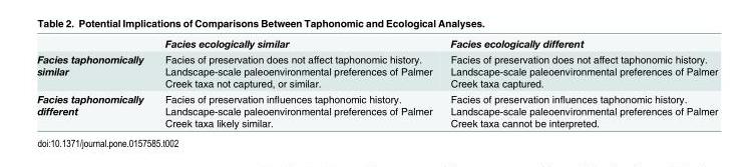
<table><thead><tr><td></td><td>Facies ecologically similar</td><td>Facies ecologically different</td></tr></thead><tbody><tr><td>Facies taphonomically similar</td><td>Facies of preservation does not affect taphonomic history. Landscape-scale paleoenvironmental preferences of Palmer Creek taxa not captured, or similar.</td><td>Facies of preservation does not affect taphonomic history. Landscape-scale paleoenvironmental preferences of Palmer Creek taxa captured.</td></tr><tr><td>Facies taphonomically different</td><td>Facies of preservation influences taphonomic history. Landscape-scale paleoenvironmental preferences of Palmer Creek taxa likely similar.</td><td>Facies of preservation influences taphonomic history. Landscape-scale paleoenvironmental preferences of Palmer Creek taxa cannot be interpreted.</td></tr></tbody></table>